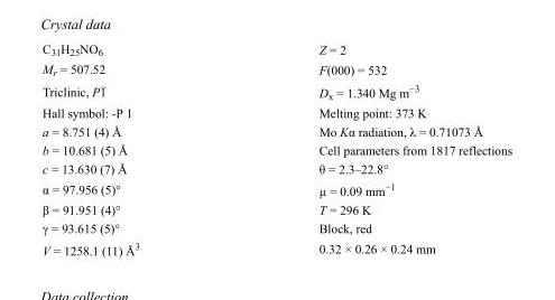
<table><tbody><tr><td>C<sub>31</sub>H<sub>25</sub>NO<sub>6</sub></td><td>Z = 2</td></tr><tr><td>M<sub>r</sub> = 507.52</td><td>F(000) = 532</td></tr><tr><td>Triclinic, P1</td><td>D<sub>x</sub> = 1.340 Mg m<sup>−3</sup></td></tr><tr><td>Hall symbol: -P 1</td><td>Melting point: 373 K</td></tr><tr><td>a = 8.751 (4) Å</td><td>Mo Kα radiation, λ = 0.71073 Å</td></tr><tr><td>b = 10.681 (5) Å</td><td>Cell parameters from 1817 reflections</td></tr><tr><td>c = 13.630 (7) Å</td><td>θ = 2.3–22.8°</td></tr><tr><td>α = 97.956 (5)°</td><td>µ = 0.09 mm<sup>−1</sup></td></tr><tr><td>β = 91.951 (4)°</td><td>T = 296 K</td></tr><tr><td>γ = 93.615 (5)°</td><td>Block, red</td></tr><tr><td>V = 1258.1 (11) Å<sup>3</sup></td><td>0.32 × 0.26 × 0.24 mm</td></tr></tbody></table>